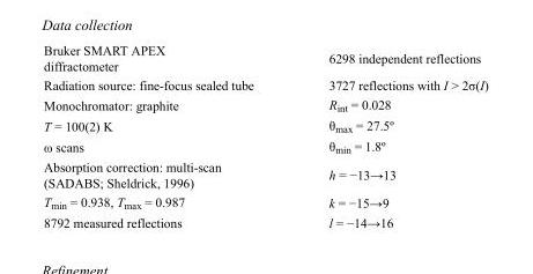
<table><tbody><tr><td>Bruker SMART APEX diffractometer</td><td>6298 independent reflections</td></tr><tr><td>Radiation source: fine-focus sealed tube</td><td>3727 reflections with I &gt; 2σ(I)</td></tr><tr><td>Monochromator: graphite</td><td>R<sub>int</sub> = 0.028</td></tr><tr><td>T = 100(2) K</td><td>θ<sub>max</sub> = 27.5º</td></tr><tr><td>ω scans</td><td>θ<sub>min</sub> = 1.8º</td></tr><tr><td>Absorption correction: multi-scan (SADABS; Sheldrick, 1996)</td><td>h = −13→13</td></tr><tr><td>T<sub>min</sub> = 0.938, T<sub>max</sub> = 0.987</td><td>k = −15→9</td></tr><tr><td>8792 measured reflections</td><td>l = −14→16</td></tr></tbody></table>